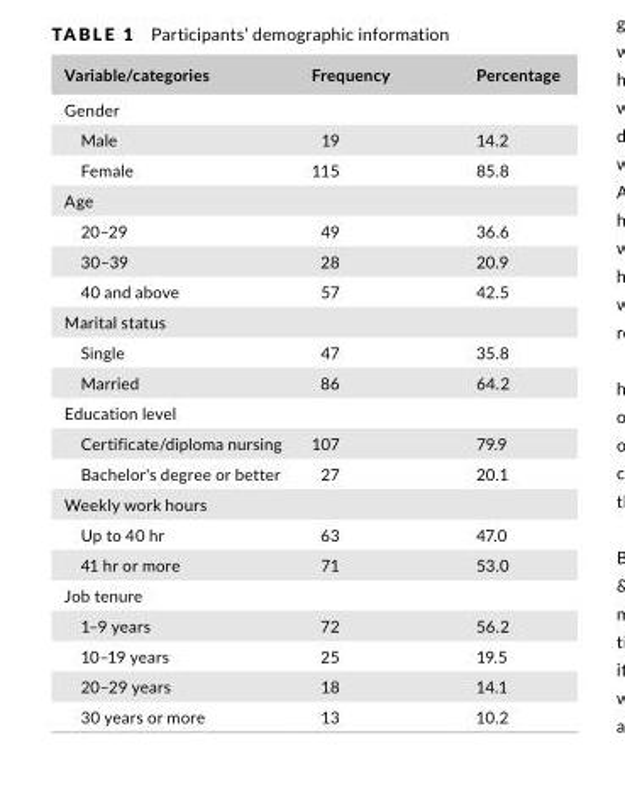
<table><thead><tr><td>Variable/categories</td><td>Frequency</td><td>Percentage</td></tr></thead><tbody><tr><td colspan="3">Gender</td></tr><tr><td>Male</td><td>19</td><td>14.2</td></tr><tr><td>Female</td><td>115</td><td>85.8</td></tr><tr><td colspan="3">Age</td></tr><tr><td>20–29</td><td>49</td><td>36.6</td></tr><tr><td>30–39</td><td>28</td><td>20.9</td></tr><tr><td>40 and above</td><td>57</td><td>42.5</td></tr><tr><td colspan="3">Marital status</td></tr><tr><td>Single</td><td>47</td><td>35.8</td></tr><tr><td>Married</td><td>86</td><td>64.2</td></tr><tr><td colspan="3">Education level</td></tr><tr><td>Certificate/diploma nursing</td><td>107</td><td>79.9</td></tr><tr><td>Bachelor&#x27;s degree or better</td><td>27</td><td>20.1</td></tr><tr><td colspan="3">Weekly work hours</td></tr><tr><td>Up to 40 hr</td><td>63</td><td>47.0</td></tr><tr><td>41 hr or more</td><td>71</td><td>53.0</td></tr><tr><td colspan="3">Job tenure</td></tr><tr><td>1–9 years</td><td>72</td><td>56.2</td></tr><tr><td>10–19 years</td><td>25</td><td>19.5</td></tr><tr><td>20–29 years</td><td>18</td><td>14.1</td></tr><tr><td>30 years or more</td><td>13</td><td>10.2</td></tr></tbody></table>